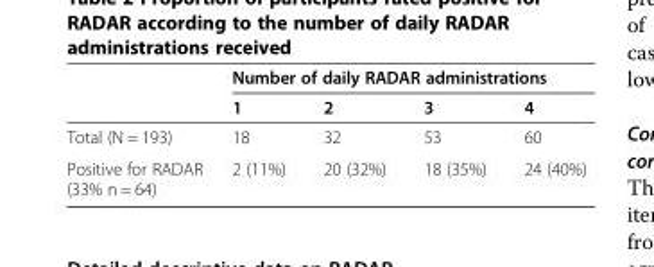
<table><thead><tr><td rowspan="2"></td><td colspan="4">Number of daily RADAR administrations</td></tr><tr><td>1</td><td>2</td><td>3</td><td>4</td></tr></thead><tbody><tr><td>Total (N = 193)</td><td>18</td><td>32</td><td>53</td><td>60</td></tr><tr><td>Positive for RADAR (33% n = 64)</td><td>2 (11%)</td><td>20 (32%)</td><td>18 (35%)</td><td>24 (40%)</td></tr></tbody></table>